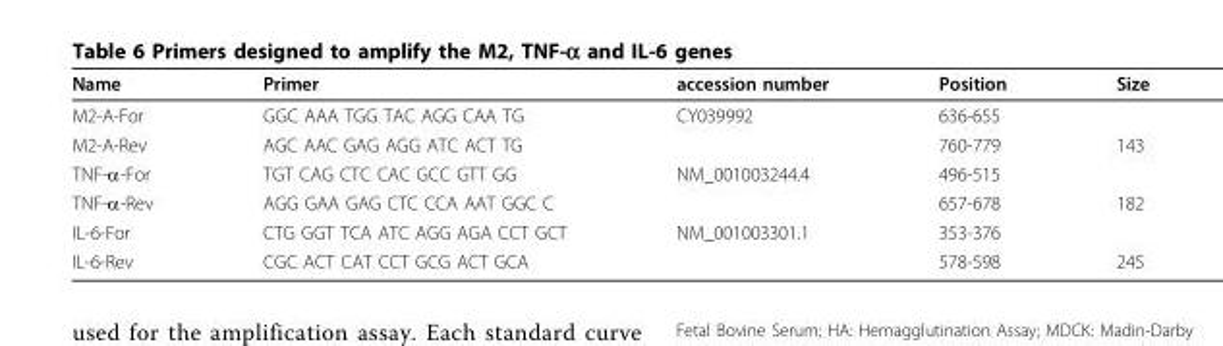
<table><thead><tr><td>Name</td><td>Primer</td><td>accession number</td><td>Position</td><td>Size</td></tr></thead><tbody><tr><td>M2-A-For</td><td>GGC AAA TGG TAC AGG CAA TG</td><td>CY039992</td><td>636-655</td><td></td></tr><tr><td>M2-A-Rev</td><td>AGC AAC GAG AGG ATC ACT TG</td><td></td><td>760-779</td><td>143</td></tr><tr><td>TNF-α-For</td><td>TGT CAG CTC CAC GCC GTT GG</td><td>NM_001003244.4</td><td>496-515</td><td></td></tr><tr><td>TNF-α-Rev</td><td>AGG GAA GAG CTC CCA AAT GGC C</td><td></td><td>657-678</td><td>182</td></tr><tr><td>IL-6-For</td><td>CTG GGT TCA ATC AGG AGA CCT GCT</td><td>NM_001003301.1</td><td>353-376</td><td></td></tr><tr><td>IL-6-Rev</td><td>CGC ACT CAT CCT GCG ACT GCA</td><td></td><td>578-598</td><td>245</td></tr></tbody></table>